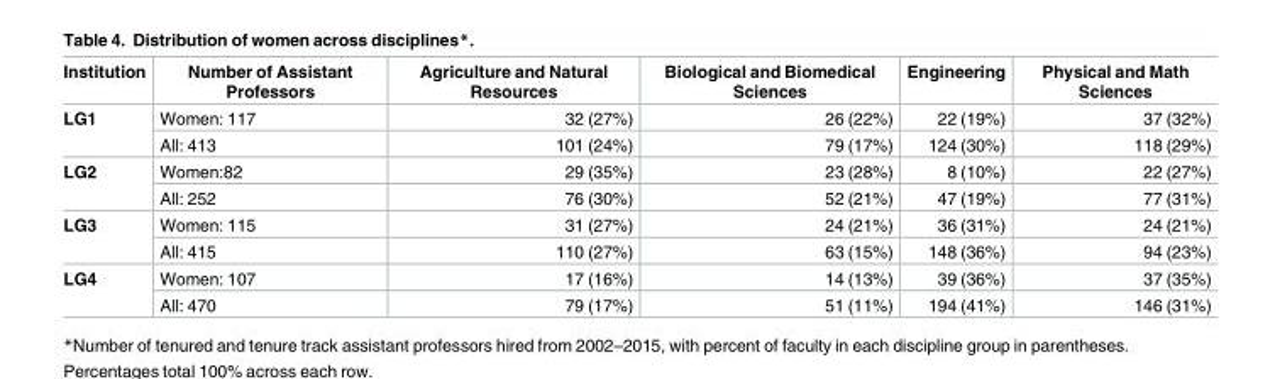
<table><thead><tr><td>Institution</td><td>Number of Assistant Professors</td><td>Agriculture and Natural Resources</td><td>Biological and Biomedical Sciences</td><td>Engineering</td><td>Physical and Math Sciences</td></tr></thead><tbody><tr><td rowspan="2">LG1</td><td>Women: 117</td><td>32 (27%)</td><td>26 (22%)</td><td>22 (19%)</td><td>37 (32%)</td></tr><tr><td>All: 413</td><td>101 (24%)</td><td>79 (17%)</td><td>124 (30%)</td><td>118 (29%)</td></tr><tr><td rowspan="2">LG2</td><td>Women:82</td><td>29 (35%)</td><td>23 (28%)</td><td>8 (10%)</td><td>22 (27%)</td></tr><tr><td>All: 252</td><td>76 (30%)</td><td>52 (21%)</td><td>47 (19%)</td><td>77 (31%)</td></tr><tr><td rowspan="2">LG3</td><td>Women: 115</td><td>31 (27%)</td><td>24 (21%)</td><td>36 (31%)</td><td>24 (21%)</td></tr><tr><td>All: 415</td><td>110 (27%)</td><td>63 (15%)</td><td>148 (36%)</td><td>94 (23%)</td></tr><tr><td rowspan="2">LG4</td><td>Women: 107</td><td>17 (16%)</td><td>14 (13%)</td><td>39 (36%)</td><td>37 (35%)</td></tr><tr><td>All: 470</td><td>79 (17%)</td><td>51 (11%)</td><td>194 (41%)</td><td>146 (31%)</td></tr></tbody></table>